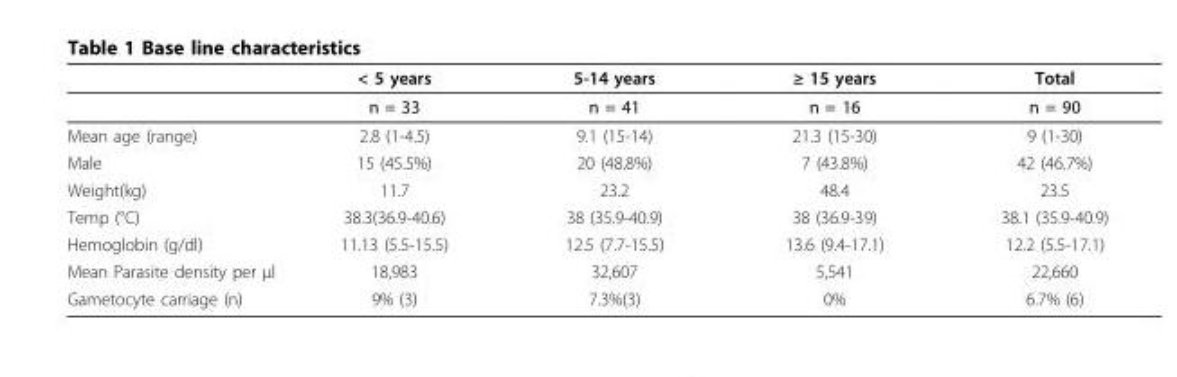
<table><thead><tr><td rowspan="2"></td><td rowspan="2">&lt; 5 years n = 33</td><td rowspan="2">5-14 years n = 41</td><td rowspan="2">≥ 15 years n = 16</td><td rowspan="2">Total n = 90</td></tr><tr></tr></thead><tbody><tr><td>Mean age (range)</td><td>2.8 (1-4.5)</td><td>9.1 (15-14)</td><td>21.3 (15-30)</td><td>9 (1-30)</td></tr><tr><td>Male</td><td>15 (45.5%)</td><td>20 (48.8%)</td><td>7 (43.8%)</td><td>42 (46.7%)</td></tr><tr><td>Weight(kg)</td><td>11.7</td><td>23.2</td><td>48.4</td><td>23.5</td></tr><tr><td>Temp (°C)</td><td>38.3(36.9-40.6)</td><td>38 (35.9-40.9)</td><td>38 (36.9-39)</td><td>38.1 (35.9-40.9)</td></tr><tr><td>Hemoglobin (g/dl)</td><td>11.13 (5.5-15.5)</td><td>12.5 (7.7-15.5)</td><td>13.6 (9.4-17.1)</td><td>12.2 (5.5-17.1)</td></tr><tr><td>Mean Parasite density per μl</td><td>18,983</td><td>32,607</td><td>5,541</td><td>22,660</td></tr><tr><td>Gametocyte carriage (n)</td><td>9% (3)</td><td>7.3%(3)</td><td>0%</td><td>6.7% (6)</td></tr></tbody></table>